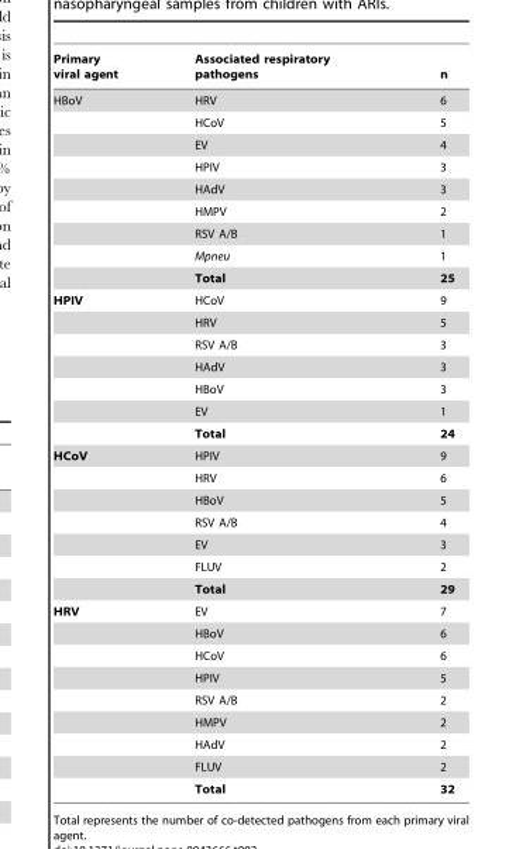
<table><thead><tr><td>Primary viral agent</td><td>Associated respiratory pathogens</td><td>n</td></tr></thead><tbody><tr><td rowspan="9">HBoV</td><td>HRV</td><td>6</td></tr><tr><td>HCoV</td><td>5</td></tr><tr><td>EV</td><td>4</td></tr><tr><td>HPIV</td><td>3</td></tr><tr><td>HAdV</td><td>3</td></tr><tr><td>HMPV</td><td>2</td></tr><tr><td>RSV A/B</td><td>1</td></tr><tr><td>Mpneu</td><td>1</td></tr><tr><td>Total</td><td>25</td></tr><tr><td rowspan="7">HPIV</td><td>HCoV</td><td>9</td></tr><tr><td>HRV</td><td>5</td></tr><tr><td>RSV A/B</td><td>3</td></tr><tr><td>HAdV</td><td>3</td></tr><tr><td>HBoV</td><td>3</td></tr><tr><td>EV</td><td>1</td></tr><tr><td>Total</td><td>24</td></tr><tr><td rowspan="7">HCoV</td><td>HPIV</td><td>9</td></tr><tr><td>HRV</td><td>6</td></tr><tr><td>HBoV</td><td>5</td></tr><tr><td>RSV A/B</td><td>4</td></tr><tr><td>EV</td><td>3</td></tr><tr><td>FLUV</td><td>2</td></tr><tr><td>Total</td><td>29</td></tr><tr><td rowspan="9">HRV</td><td>EV</td><td>7</td></tr><tr><td>HBoV</td><td>6</td></tr><tr><td>HCoV</td><td>6</td></tr><tr><td>HPIV</td><td>5</td></tr><tr><td>RSV A/B</td><td>2</td></tr><tr><td>HMPV</td><td>2</td></tr><tr><td>HAdV</td><td>2</td></tr><tr><td>FLUV</td><td>2</td></tr><tr><td>Total</td><td>32</td></tr></tbody></table>